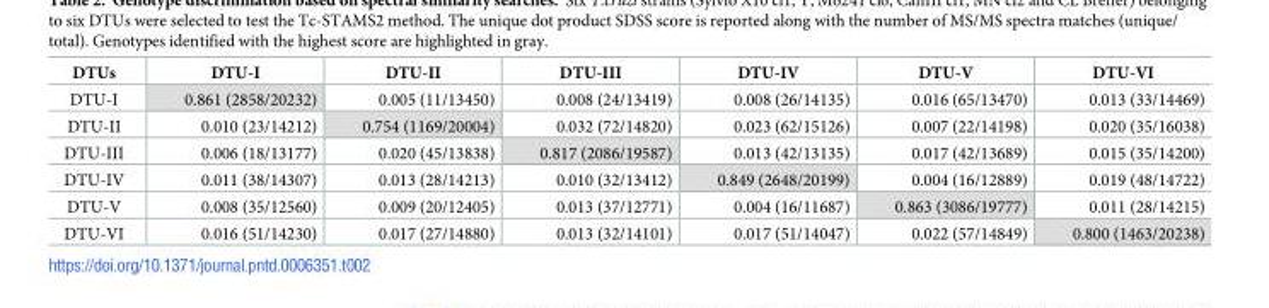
<table><thead><tr><td>DTUs</td><td>DTU-I</td><td>DTU-II</td><td>DTU-III</td><td>DTU-IV</td><td>DTU-V</td><td>DTU-VI</td></tr></thead><tbody><tr><td>DTU-I</td><td>0.861 (2858/20232)</td><td>0.005 (11/13450)</td><td>0.008 (24/13419)</td><td>0.008 (26/14135)</td><td>0.016 (65/13470)</td><td>0.013 (33/14469)</td></tr><tr><td>DTU-II</td><td>0.010 (23/14212)</td><td>0.754 (1169/20004)</td><td>0.032 (72/14820)</td><td>0.023 (62/15126)</td><td>0.007 (22/14198)</td><td>0.020 (35/16038)</td></tr><tr><td>DTU-III</td><td>0.006 (18/13177)</td><td>0.020 (45/13838)</td><td>0.817 (2086/19587)</td><td>0.013 (42/13135)</td><td>0.017 (42/13689)</td><td>0.015 (35/14200)</td></tr><tr><td>DTU-IV</td><td>0.011 (38/14307)</td><td>0.013 (28/14213)</td><td>0.010 (32/13412)</td><td>0.849 (2648/20199)</td><td>0.004 (16/12889)</td><td>0.019 (48/14722)</td></tr><tr><td>DTU-V</td><td>0.008 (35/12560)</td><td>0.009 (20/12405)</td><td>0.013 (37/12771)</td><td>0.004 (16/11687)</td><td>0.863 (3086/19777)</td><td>0.011 (28/14215)</td></tr><tr><td>DTU-VI</td><td>0.016 (51/14230)</td><td>0.017 (27/14880)</td><td>0.013 (32/14101)</td><td>0.017 (51/14047)</td><td>0.022 (57/14849)</td><td>0.800 (1463/20238)</td></tr></tbody></table>